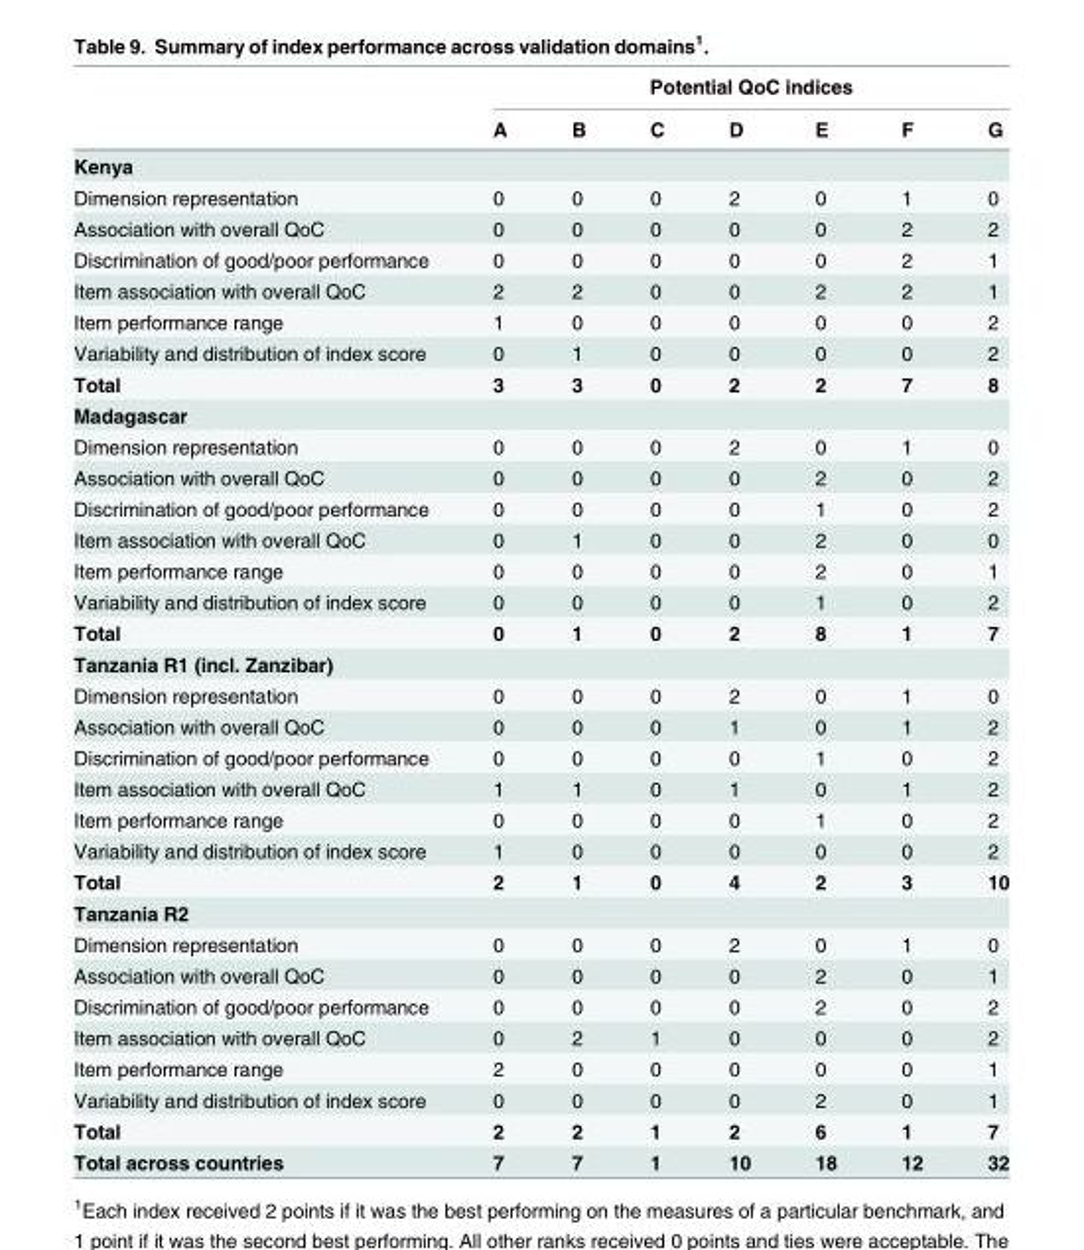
<table><thead><tr><td rowspan="2"></td><td colspan="7">Potential QoC indices</td></tr><tr><td>A</td><td>B</td><td>C</td><td>D</td><td>E</td><td>F</td><td>G</td></tr></thead><tbody><tr><td colspan="8">Kenya</td></tr><tr><td>Dimension representation</td><td>0</td><td>0</td><td>0</td><td>2</td><td>0</td><td>1</td><td>0</td></tr><tr><td>Association with overall QoC</td><td>0</td><td>0</td><td>0</td><td>0</td><td>0</td><td>2</td><td>2</td></tr><tr><td>Discrimination of good/poor performance</td><td>0</td><td>0</td><td>0</td><td>0</td><td>0</td><td>2</td><td>1</td></tr><tr><td>Item association with overall QoC</td><td>2</td><td>2</td><td>0</td><td>0</td><td>2</td><td>2</td><td>1</td></tr><tr><td>Item performance range</td><td>1</td><td>0</td><td>0</td><td>0</td><td>0</td><td>0</td><td>2</td></tr><tr><td>Variability and distribution of index score</td><td>0</td><td>1</td><td>0</td><td>0</td><td>0</td><td>0</td><td>2</td></tr><tr><td>Total</td><td>3</td><td>3</td><td>0</td><td>2</td><td>2</td><td>7</td><td>8</td></tr><tr><td colspan="8">Madagascar</td></tr><tr><td>Dimension representation</td><td>0</td><td>0</td><td>0</td><td>2</td><td>0</td><td>1</td><td>0</td></tr><tr><td>Association with overall QoC</td><td>0</td><td>0</td><td>0</td><td>0</td><td>2</td><td>0</td><td>2</td></tr><tr><td>Discrimination of good/poor performance</td><td>0</td><td>0</td><td>0</td><td>0</td><td>1</td><td>0</td><td>2</td></tr><tr><td>Item association with overall QoC</td><td>0</td><td>1</td><td>0</td><td>0</td><td>2</td><td>0</td><td>0</td></tr><tr><td>Item performance range</td><td>0</td><td>0</td><td>0</td><td>0</td><td>2</td><td>0</td><td>1</td></tr><tr><td>Variability and distribution of index score</td><td>0</td><td>0</td><td>0</td><td>0</td><td>1</td><td>0</td><td>2</td></tr><tr><td>Total</td><td>0</td><td>1</td><td>0</td><td>2</td><td>8</td><td>1</td><td>7</td></tr><tr><td colspan="8">Tanzania R1 (incl. Zanzibar)</td></tr><tr><td>Dimension representation</td><td>0</td><td>0</td><td>0</td><td>2</td><td>0</td><td>1</td><td>0</td></tr><tr><td>Association with overall QoC</td><td>0</td><td>0</td><td>0</td><td>1</td><td>0</td><td>1</td><td>2</td></tr><tr><td>Discrimination of good/poor performance</td><td>0</td><td>0</td><td>0</td><td>0</td><td>1</td><td>0</td><td>2</td></tr><tr><td>Item association with overall QoC</td><td>1</td><td>1</td><td>0</td><td>1</td><td>0</td><td>1</td><td>2</td></tr><tr><td>Item performance range</td><td>0</td><td>0</td><td>0</td><td>0</td><td>1</td><td>0</td><td>2</td></tr><tr><td>Variability and distribution of index score</td><td>1</td><td>0</td><td>0</td><td>0</td><td>0</td><td>0</td><td>2</td></tr><tr><td>Total</td><td>2</td><td>1</td><td>0</td><td>4</td><td>2</td><td>3</td><td>10</td></tr><tr><td colspan="8">Tanzania R2</td></tr><tr><td>Dimension representation</td><td>0</td><td>0</td><td>0</td><td>2</td><td>0</td><td>1</td><td>0</td></tr><tr><td>Association with overall QoC</td><td>0</td><td>0</td><td>0</td><td>0</td><td>2</td><td>0</td><td>1</td></tr><tr><td>Discrimination of good/poor performance</td><td>0</td><td>0</td><td>0</td><td>0</td><td>2</td><td>0</td><td>2</td></tr><tr><td>Item association with overall QoC</td><td>0</td><td>2</td><td>1</td><td>0</td><td>0</td><td>0</td><td>2</td></tr><tr><td>Item performance range</td><td>2</td><td>0</td><td>0</td><td>0</td><td>0</td><td>0</td><td>1</td></tr><tr><td>Variability and distribution of index score</td><td>0</td><td>0</td><td>0</td><td>0</td><td>2</td><td>0</td><td>1</td></tr><tr><td>Total</td><td>2</td><td>2</td><td>1</td><td>2</td><td>6</td><td>1</td><td>7</td></tr><tr><td>Total across countries</td><td>7</td><td>7</td><td>1</td><td>10</td><td>18</td><td>12</td><td>32</td></tr></tbody></table>